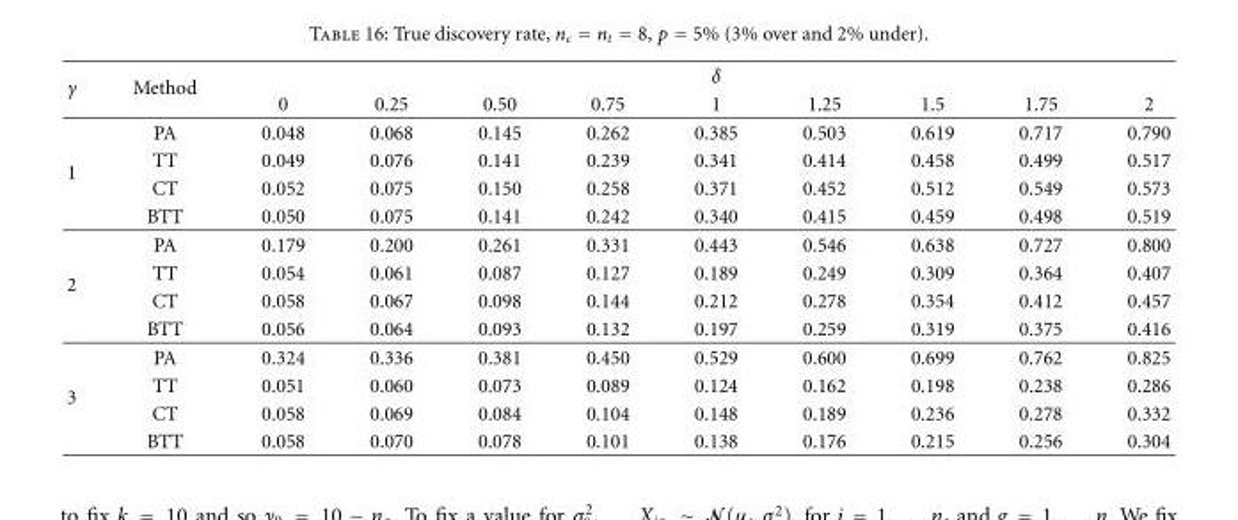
<table><thead><tr><td rowspan="2">γ</td><td rowspan="2">Method</td><td colspan="9">δ</td></tr><tr><td>0</td><td>0.25</td><td>0.50</td><td>0.75</td><td>1</td><td>1.25</td><td>1.5</td><td>1.75</td><td>2</td></tr></thead><tbody><tr><td rowspan="4">1</td><td>PA</td><td>0.048</td><td>0.068</td><td>0.145</td><td>0.262</td><td>0.385</td><td>0.503</td><td>0.619</td><td>0.717</td><td>0.790</td></tr><tr><td>TT</td><td>0.049</td><td>0.076</td><td>0.141</td><td>0.239</td><td>0.341</td><td>0.414</td><td>0.458</td><td>0.499</td><td>0.517</td></tr><tr><td>CT</td><td>0.052</td><td>0.075</td><td>0.150</td><td>0.258</td><td>0.371</td><td>0.452</td><td>0.512</td><td>0.549</td><td>0.573</td></tr><tr><td>BTT</td><td>0.050</td><td>0.075</td><td>0.141</td><td>0.242</td><td>0.340</td><td>0.415</td><td>0.459</td><td>0.498</td><td>0.519</td></tr><tr><td rowspan="4">2</td><td>PA</td><td>0.179</td><td>0.200</td><td>0.261</td><td>0.331</td><td>0.443</td><td>0.546</td><td>0.638</td><td>0.727</td><td>0.800</td></tr><tr><td>TT</td><td>0.054</td><td>0.061</td><td>0.087</td><td>0.127</td><td>0.189</td><td>0.249</td><td>0.309</td><td>0.364</td><td>0.407</td></tr><tr><td>CT</td><td>0.058</td><td>0.067</td><td>0.098</td><td>0.144</td><td>0.212</td><td>0.278</td><td>0.354</td><td>0.412</td><td>0.457</td></tr><tr><td>BTT</td><td>0.056</td><td>0.064</td><td>0.093</td><td>0.132</td><td>0.197</td><td>0.259</td><td>0.319</td><td>0.375</td><td>0.416</td></tr><tr><td rowspan="4">3</td><td>PA</td><td>0.324</td><td>0.336</td><td>0.381</td><td>0.450</td><td>0.529</td><td>0.600</td><td>0.699</td><td>0.762</td><td>0.825</td></tr><tr><td>TT</td><td>0.051</td><td>0.060</td><td>0.073</td><td>0.089</td><td>0.124</td><td>0.162</td><td>0.198</td><td>0.238</td><td>0.286</td></tr><tr><td>CT</td><td>0.058</td><td>0.069</td><td>0.084</td><td>0.104</td><td>0.148</td><td>0.189</td><td>0.236</td><td>0.278</td><td>0.332</td></tr><tr><td>BTT</td><td>0.058</td><td>0.070</td><td>0.078</td><td>0.101</td><td>0.138</td><td>0.176</td><td>0.215</td><td>0.256</td><td>0.304</td></tr></tbody></table>